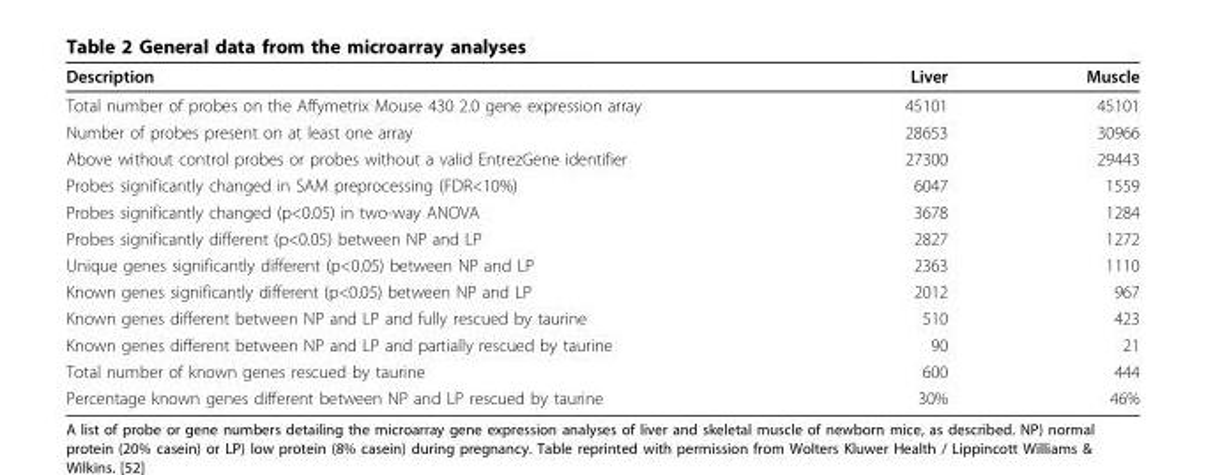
<table><thead><tr><td>Description</td><td>Liver</td><td>Muscle</td></tr></thead><tbody><tr><td>Total number of probes on the Affymetrix Mouse 430 2.0 gene expression array</td><td>45101</td><td>45101</td></tr><tr><td>Number of probes present on at least one array</td><td>28653</td><td>30966</td></tr><tr><td>Above without control probes or probes without a valid EntrezGene identifier</td><td>27300</td><td>29443</td></tr><tr><td>Probes significantly changed in SAM preprocessing (FDR&lt;10%)</td><td>6047</td><td>1559</td></tr><tr><td>Probes significantly changed (p&lt;0.05) in two-way ANOVA</td><td>3678</td><td>1284</td></tr><tr><td>Probes significantly different (p&lt;0.05) between NP and LP</td><td>2827</td><td>1272</td></tr><tr><td>Unique genes significantly different (p&lt;0.05) between NP and LP</td><td>2363</td><td>1110</td></tr><tr><td>Known genes significantly different (p&lt;0.05) between NP and LP</td><td>2012</td><td>967</td></tr><tr><td>Known genes different between NP and LP and fully rescued by taurine</td><td>510</td><td>423</td></tr><tr><td>Known genes different between NP and LP and partially rescued by taurine</td><td>90</td><td>21</td></tr><tr><td>Total number of known genes rescued by taurine</td><td>600</td><td>444</td></tr><tr><td>Percentage known genes different between NP and LP rescued by taurine</td><td>30%</td><td>46%</td></tr></tbody></table>